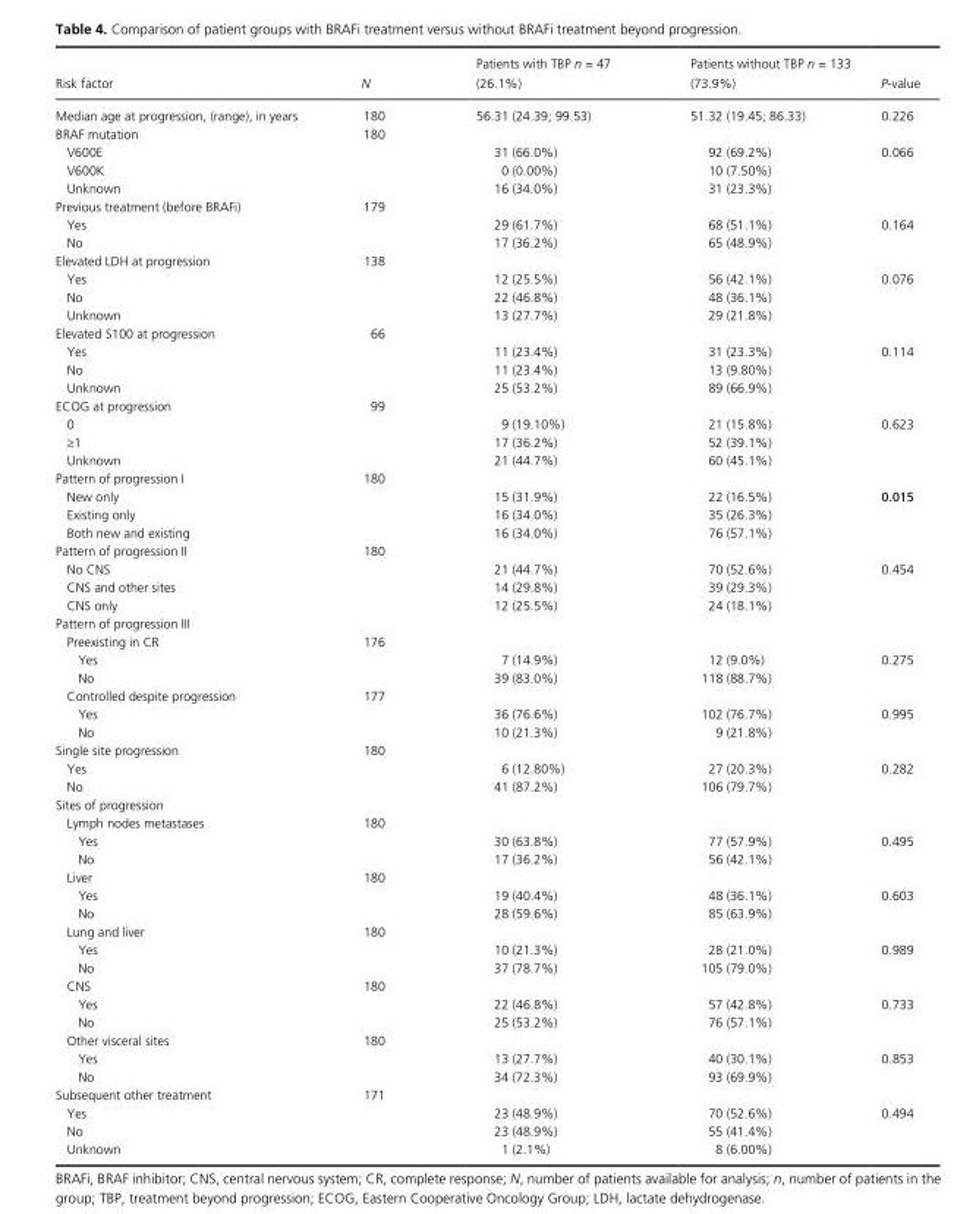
<table><thead><tr><td>Risk factor</td><td>N</td><td>Patients with TBP n = 47 (26.1%)</td><td>Patients without TBP n = 133 (73.9%)</td><td>P- value</td></tr></thead><tbody><tr><td>Median age at progression, (range), in years</td><td>180</td><td>56.31 (24.39; 99.53)</td><td>51.32 (19.45; 86.33)</td><td>0.226</td></tr><tr><td>BRAF mutation</td><td>180</td><td></td><td></td><td></td></tr><tr><td>V600E</td><td></td><td>31 (66.0%)</td><td>92 (69.2%)</td><td>0.066</td></tr><tr><td>V600K</td><td></td><td>0 (0.00%)</td><td>10 (7.50%)</td><td></td></tr><tr><td>Unknown</td><td></td><td>16 (34.0%)</td><td>31 (23.3%)</td><td></td></tr><tr><td>Previous treatment (before BRAFi)</td><td>179</td><td></td><td></td><td></td></tr><tr><td>Yes</td><td></td><td>29 (61.7%)</td><td>68 (51.1%)</td><td>0.164</td></tr><tr><td>No</td><td></td><td>17 (36.2%)</td><td>65 (48.9%)</td><td></td></tr><tr><td>Elevated LDH at progression</td><td>138</td><td></td><td></td><td></td></tr><tr><td>Yes</td><td></td><td>12 (25.5%)</td><td>56 (42.1%)</td><td>0.076</td></tr><tr><td>No</td><td></td><td>22 (46.8%)</td><td>48 (36.1%)</td><td></td></tr><tr><td>Unknown</td><td></td><td>13 (27.7%)</td><td>29 (21.8%)</td><td></td></tr><tr><td>Elevated S100 at progression</td><td>66</td><td></td><td></td><td></td></tr><tr><td>Yes</td><td></td><td>11 (23.4%)</td><td>31 (23.3%)</td><td>0.114</td></tr><tr><td>No</td><td></td><td>11 (23.4%)</td><td>13 (9.80%)</td><td></td></tr><tr><td>Unknown</td><td></td><td>25 (53.2%)</td><td>89 (66.9%)</td><td></td></tr><tr><td>ECOG at progression</td><td>99</td><td></td><td></td><td></td></tr><tr><td>0</td><td></td><td>9 (19.10%)</td><td>21 (15.8%)</td><td>0.623</td></tr><tr><td>≥1</td><td></td><td>17 (36.2%)</td><td>52 (39.1%)</td><td></td></tr><tr><td>Unknown</td><td></td><td>21 (44.7%)</td><td>60 (45.1%)</td><td></td></tr><tr><td>Pattern of progression I</td><td>180</td><td></td><td></td><td></td></tr><tr><td>New only</td><td></td><td>15 (31.9%)</td><td>22 (16.5%)</td><td>0.015</td></tr><tr><td>Existing only</td><td></td><td>16 (34.0%)</td><td>35 (26.3%)</td><td></td></tr><tr><td>Both new and existing</td><td></td><td>16 (34.0%)</td><td>76 (57.1%)</td><td></td></tr><tr><td>Pattern of progression II</td><td>180</td><td></td><td></td><td></td></tr><tr><td>No CNS</td><td></td><td>21 (44.7%)</td><td>70 (52.6%)</td><td>0.454</td></tr><tr><td>CNS and other sites</td><td></td><td>14 (29.8%)</td><td>39 (29.3%)</td><td></td></tr><tr><td>CNS only</td><td></td><td>12 (25.5%)</td><td>24 (18.1%)</td><td></td></tr><tr><td colspan="5">Pattern of progression III</td></tr><tr><td>Preexisting in CR</td><td>176</td><td></td><td></td><td></td></tr><tr><td>Yes</td><td></td><td>7 (14.9%)</td><td>12 (9.0%)</td><td>0.275</td></tr><tr><td>No</td><td></td><td>39 (83.0%)</td><td>118 (88.7%)</td><td></td></tr><tr><td>Controlled despite progression</td><td>177</td><td></td><td></td><td></td></tr><tr><td>Yes</td><td></td><td>36 (76.6%)</td><td>102 (76.7%)</td><td>0.995</td></tr><tr><td>No</td><td></td><td>10 (21.3%)</td><td>9 (21.8%)</td><td></td></tr><tr><td>Single site progression</td><td>180</td><td></td><td></td><td></td></tr><tr><td>Yes</td><td></td><td>6 (12.80%)</td><td>27 (20.3%)</td><td>0.282</td></tr><tr><td>No</td><td></td><td>41 (87.2%)</td><td>106 (79.7%)</td><td></td></tr><tr><td colspan="5">Sites of progression</td></tr><tr><td>Lymph nodes metastases</td><td>180</td><td></td><td></td><td></td></tr><tr><td>Yes</td><td></td><td>30 (63.8%)</td><td>77 (57.9%)</td><td>0.495</td></tr><tr><td>No</td><td></td><td>17 (36.2%)</td><td>56 (42.1%)</td><td></td></tr><tr><td>Liver</td><td>180</td><td></td><td></td><td></td></tr><tr><td>Yes</td><td></td><td>19 (40.4%)</td><td>48 (36.1%)</td><td>0.603</td></tr><tr><td>No</td><td></td><td>28 (59.6%)</td><td>85 (63.9%)</td><td></td></tr><tr><td>Lung and liver</td><td>180</td><td></td><td></td><td></td></tr><tr><td>Yes</td><td></td><td>10 (21.3%)</td><td>28 (21.0%)</td><td>0.989</td></tr><tr><td>No</td><td></td><td>37 (78.7%)</td><td>105 (79.0%)</td><td></td></tr><tr><td>CNS</td><td>180</td><td></td><td></td><td></td></tr><tr><td>Yes</td><td></td><td>22 (46.8%)</td><td>57 (42.8%)</td><td>0.733</td></tr><tr><td>No</td><td></td><td>25 (53.2%)</td><td>76 (57.1%)</td><td></td></tr><tr><td>Other visceral sites</td><td>180</td><td></td><td></td><td></td></tr><tr><td>Yes</td><td></td><td>13 (27.7%)</td><td>40 (30.1%)</td><td>0.853</td></tr><tr><td>No</td><td></td><td>34 (72.3%)</td><td>93 (69.9%)</td><td></td></tr><tr><td>Subsequent other treatment</td><td>171</td><td></td><td></td><td></td></tr><tr><td>Yes</td><td></td><td>23 (48.9%)</td><td>70 (52.6%)</td><td>0.494</td></tr><tr><td>No</td><td></td><td>23 (48.9%)</td><td>55 (41.4%)</td><td></td></tr><tr><td>Unknown</td><td></td><td>1 (2.1%)</td><td>8 (6.00%)</td><td></td></tr></tbody></table>